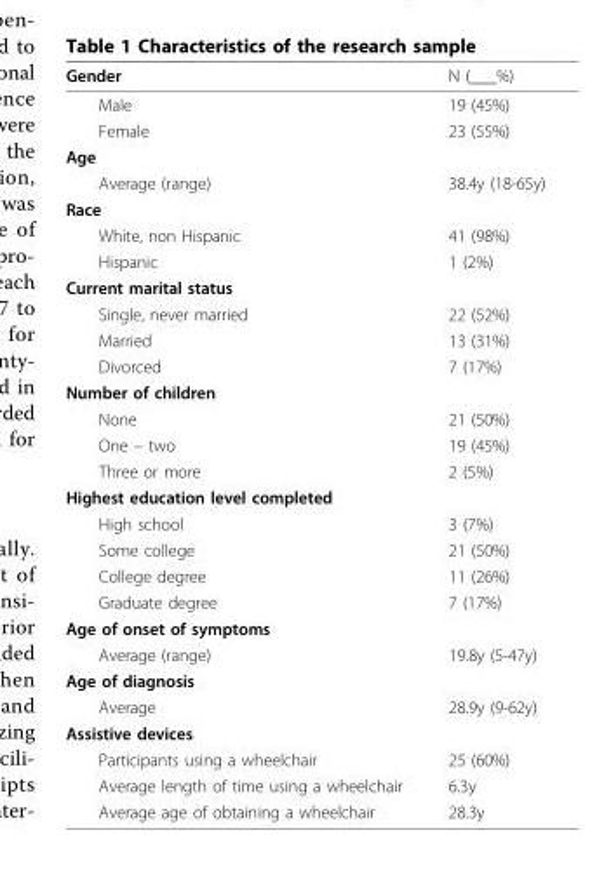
<table><thead><tr><td>Gender</td><td>N (___%)</td></tr></thead><tbody><tr><td>Male</td><td>19 (45%)</td></tr><tr><td>Female</td><td>23 (55%)</td></tr><tr><td colspan="2">Age</td></tr><tr><td>Average (range)</td><td>38.4y (18-65y)</td></tr><tr><td colspan="2">Race</td></tr><tr><td>White, non Hispanic</td><td>41 (98%)</td></tr><tr><td>Hispanic</td><td>1 (2%)</td></tr><tr><td colspan="2">Current marital status</td></tr><tr><td>Single, never married</td><td>22 (52%)</td></tr><tr><td>Married</td><td>13 (31%)</td></tr><tr><td>Divorced</td><td>7 (17%)</td></tr><tr><td colspan="2">Number of children</td></tr><tr><td>None</td><td>21 (50%)</td></tr><tr><td>One – two</td><td>19 (45%)</td></tr><tr><td>Three or more</td><td>2 (5%)</td></tr><tr><td colspan="2">Highest education level completed</td></tr><tr><td>High school</td><td>3 (7%)</td></tr><tr><td>Some college</td><td>21 (50%)</td></tr><tr><td>College degree</td><td>11 (26%)</td></tr><tr><td>Graduate degree</td><td>7 (17%)</td></tr><tr><td colspan="2">Age of onset of symptoms</td></tr><tr><td>Average (range)</td><td>19.8y (5-47y)</td></tr><tr><td colspan="2">Age of diagnosis</td></tr><tr><td>Average</td><td>28.9y (9-62y)</td></tr><tr><td colspan="2">Assistive devices</td></tr><tr><td>Participants using a wheelchair</td><td>25 (60%)</td></tr><tr><td>Average length of time using a wheelchair</td><td>6.3y</td></tr><tr><td>Average age of obtaining a wheelchair</td><td>28.3y</td></tr></tbody></table>